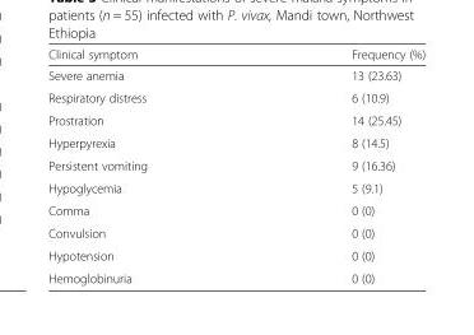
<table><thead><tr><td>Clinical symptom</td><td>Frequency (%)</td></tr></thead><tbody><tr><td>Severe anemia</td><td>13 (23.63)</td></tr><tr><td>Respiratory distress</td><td>6 (10.9)</td></tr><tr><td>Prostration</td><td>14 (25.45)</td></tr><tr><td>Hyperpyrexia</td><td>8 (14.5)</td></tr><tr><td>Persistent vomiting</td><td>9 (16.36)</td></tr><tr><td>Hypoglycemia</td><td>5 (9.1)</td></tr><tr><td>Comma</td><td>0 (0)</td></tr><tr><td>Convulsion</td><td>0 (0)</td></tr><tr><td>Hypotension</td><td>0 (0)</td></tr><tr><td>Hemoglobinuria</td><td>0 (0)</td></tr></tbody></table>